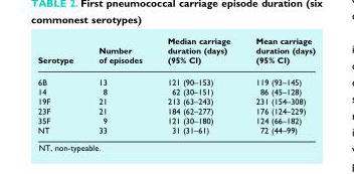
<table><thead><tr><td>Serotype</td><td>Number of episodes</td><td>Median carriage duration (days) (95% CI)</td><td>Mean carriage duration (days) (95% CI)</td></tr></thead><tbody><tr><td>6B</td><td>13</td><td>121 (90–153)</td><td>119 (93–145)</td></tr><tr><td>14</td><td>8</td><td>62 (30–151)</td><td>86 (45–128)</td></tr><tr><td>19F</td><td>21</td><td>213 (63–243)</td><td>231 (154–308)</td></tr><tr><td>23F</td><td>21</td><td>184 (62–277)</td><td>176 (124–229)</td></tr><tr><td>35F</td><td>9</td><td>121 (30–180)</td><td>124 (66–182)</td></tr><tr><td>NT</td><td>33</td><td>31 (31–61)</td><td>72 (44–99)</td></tr></tbody></table>